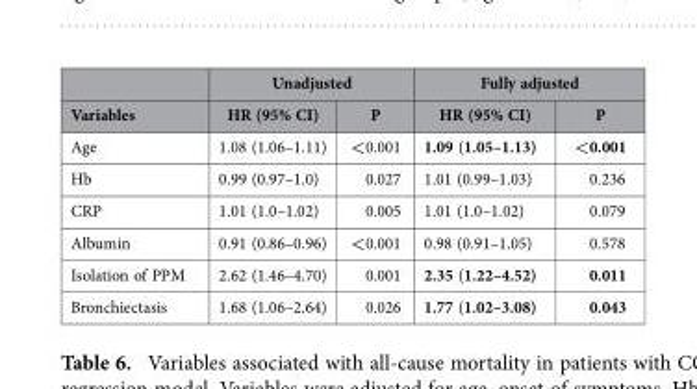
<table><thead><tr><td rowspan="2">Variables</td><td colspan="2">Unadjusted</td><td colspan="2">Fully adjusted</td></tr><tr><td>HR (95% CI)</td><td>P</td><td>HR (95% CI)</td><td>P</td></tr></thead><tbody><tr><td>Age</td><td>1.08 (1.06–1.11)</td><td>&lt;0.001</td><td>1.09 (1.05–1.13)</td><td>&lt;0.001</td></tr><tr><td>Hb</td><td>0.99 (0.97–1.0)</td><td>0.027</td><td>1.01 (0.99–1.03)</td><td>0.236</td></tr><tr><td>CRP</td><td>1.01 (1.0–1.02)</td><td>0.005</td><td>1.01 (1.0–1.02)</td><td>0.079</td></tr><tr><td>Albumin</td><td>0.91 (0.86–0.96)</td><td>&lt;0.001</td><td>0.98 (0.91–1.05)</td><td>0.578</td></tr><tr><td>Isolation of PPM</td><td>2.62 (1.46–4.70)</td><td>0.001</td><td>2.35 (1.22–4.52)</td><td>0.011</td></tr><tr><td>Bronchiectasis</td><td>1.68 (1.06–2.64)</td><td>0.026</td><td>1.77 (1.02–3.08)</td><td>0.043</td></tr></tbody></table>